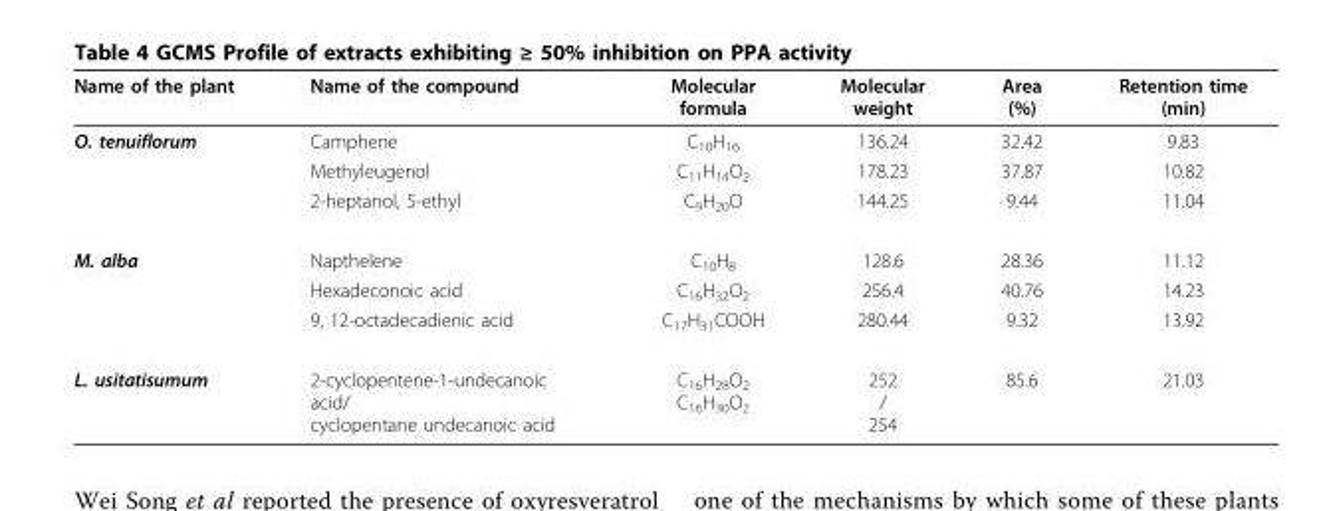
<table><thead><tr><td>Name of the plant</td><td>Name of the compound</td><td>Molecular formula</td><td>Molecular weight</td><td>Area (%)</td><td>Retention time (min)</td></tr></thead><tbody><tr><td rowspan="3">O. tenuiflorum</td><td>Camphene</td><td>C<sub>10</sub>H<sub>16</sub></td><td>136.24</td><td>32.42</td><td>9.83</td></tr><tr><td>Methyleugenol</td><td>C<sub>11</sub>H<sub>14</sub>O<sub>2</sub></td><td>178.23</td><td>37.87</td><td>10.82</td></tr><tr><td>2-heptanol, 5-ethyl</td><td>C<sub>9</sub>H<sub>20</sub>O</td><td>144.25</td><td>9.44</td><td>11.04</td></tr><tr><td rowspan="3">M. alba</td><td>Napthelene</td><td>C<sub>10</sub>H<sub>8</sub></td><td>128.6</td><td>28.36</td><td>11.12</td></tr><tr><td>Hexadeconoic acid</td><td>C<sub>16</sub>H<sub>32</sub>O<sub>2</sub></td><td>256.4</td><td>40.76</td><td>14.23</td></tr><tr><td>9, 12-octadecadienic acid</td><td>C<sub>17</sub>H<sub>31</sub>COOH</td><td>280.44</td><td>9.32</td><td>13.92</td></tr><tr><td>L. usitatisumum</td><td>2-cyclopentene-1-undecanoic acid/ cyclopentane undecanoic acid</td><td>C<sub>16</sub>H<sub>28</sub>O<sub>2</sub> C<sub>16</sub>H<sub>30</sub>O<sub>2</sub></td><td>252 / 254</td><td>85.6</td><td>21.03</td></tr></tbody></table>